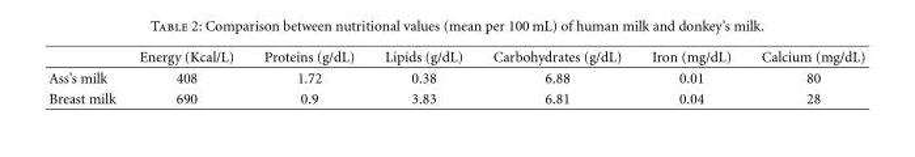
<table><thead><tr><td></td><td>Energy (Kcal/L)</td><td>Proteins (g/dL)</td><td>Lipids (g/dL)</td><td>Carbohydrates (g/dL)</td><td>Iron (mg/dL)</td><td>Calcium (mg/dL)</td></tr></thead><tbody><tr><td>Ass’s milk</td><td>408</td><td>1.72</td><td>0.38</td><td>6.88</td><td>0.01</td><td>80</td></tr><tr><td>Breast milk</td><td>690</td><td>0.9</td><td>3.83</td><td>6.81</td><td>0.04</td><td>28</td></tr></tbody></table>